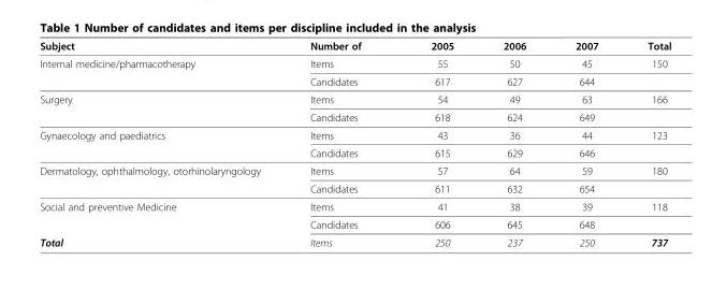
<table><thead><tr><td>Subject</td><td>Number of</td><td>2005</td><td>2006</td><td>2007</td><td>Total</td></tr></thead><tbody><tr><td rowspan="2">Internal medicine/pharmacotherapy</td><td>Items</td><td>55</td><td>50</td><td>45</td><td>150</td></tr><tr><td>Candidates</td><td>617</td><td>627</td><td>644</td><td></td></tr><tr><td rowspan="2">Surgery</td><td>Items</td><td>54</td><td>49</td><td>63</td><td>166</td></tr><tr><td>Candidates</td><td>618</td><td>624</td><td>649</td><td></td></tr><tr><td rowspan="2">Gynaecology and paediatrics</td><td>Items</td><td>43</td><td>36</td><td>44</td><td>123</td></tr><tr><td>Candidates</td><td>615</td><td>629</td><td>646</td><td></td></tr><tr><td rowspan="2">Dermatology, ophthalmology, otorhinolaryngology</td><td>Items</td><td>57</td><td>64</td><td>59</td><td>180</td></tr><tr><td>Candidates</td><td>611</td><td>632</td><td>654</td><td></td></tr><tr><td rowspan="2">Social and preventive Medicine</td><td>Items</td><td>41</td><td>38</td><td>39</td><td>118</td></tr><tr><td>Candidates</td><td>606</td><td>645</td><td>648</td><td></td></tr><tr><td>Total</td><td>Items</td><td>250</td><td>237</td><td>250</td><td>737</td></tr></tbody></table>